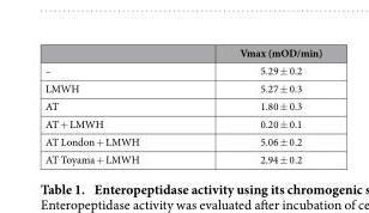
<table><thead><tr><td></td><td>Vmax (mOD/min)</td></tr></thead><tbody><tr><td>–</td><td>5.29 ± 0.2</td></tr><tr><td>LMWH</td><td>5.27 ± 0.3</td></tr><tr><td>AT</td><td>1.80 ± 0.3</td></tr><tr><td>AT + LMWH</td><td>0.20 ± 0.1</td></tr><tr><td>AT London + LMWH</td><td>5.06 ± 0.2</td></tr><tr><td>AT Toyama + LMWH</td><td>2.94 ± 0.2</td></tr></tbody></table>